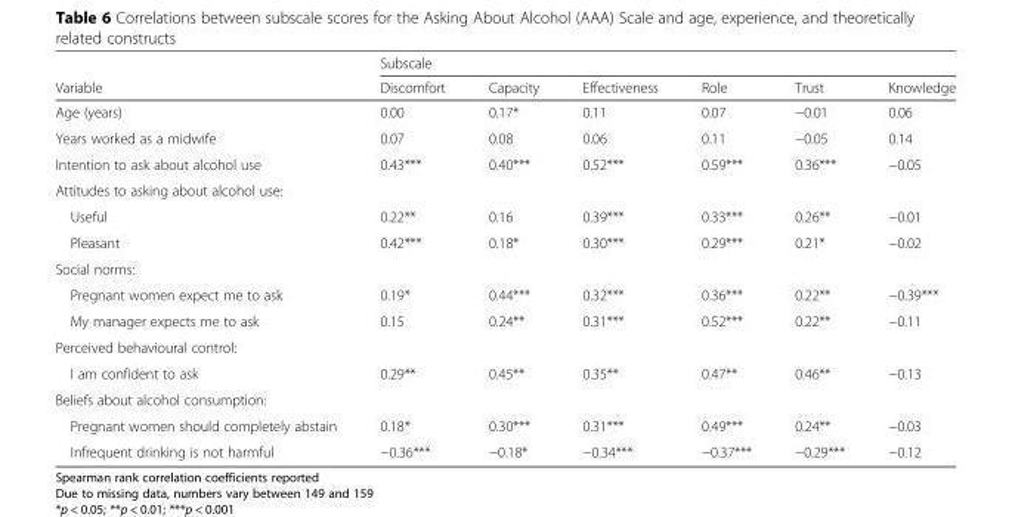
<table><thead><tr><td rowspan="2">Variable</td><td colspan="6">Subscale</td></tr><tr><td>Discomfort</td><td>Capacity</td><td>Effectiveness</td><td>Role</td><td>Trust</td><td>Knowledge</td></tr></thead><tbody><tr><td>Age (years)</td><td>0.00</td><td>0.17*</td><td>0.11</td><td>0.07</td><td>−0.01</td><td>0.06</td></tr><tr><td>Years worked as a midwife</td><td>0.07</td><td>0.08</td><td>0.06</td><td>0.11</td><td>−0.05</td><td>0.14</td></tr><tr><td>Intention to ask about alcohol use</td><td>0.43***</td><td>0.40***</td><td>0.52***</td><td>0.59***</td><td>0.36***</td><td>−0.05</td></tr><tr><td colspan="7">Attitudes to asking about alcohol use:</td></tr><tr><td>Useful</td><td>0.22**</td><td>0.16</td><td>0.39***</td><td>0.33***</td><td>0.26**</td><td>−0.01</td></tr><tr><td>Pleasant</td><td>0.42***</td><td>0.18*</td><td>0.30***</td><td>0.29***</td><td>0.21*</td><td>−0.02</td></tr><tr><td colspan="7">Social norms:</td></tr><tr><td>Pregnant women expect me to ask</td><td>0.19*</td><td>0.44***</td><td>0.32***</td><td>0.36***</td><td>0.22**</td><td>−0.39***</td></tr><tr><td>My manager expects me to ask</td><td>0.15</td><td>0.24**</td><td>0.31***</td><td>0.52***</td><td>0.22**</td><td>−0.11</td></tr><tr><td colspan="7">Perceived behavioural control:</td></tr><tr><td>I am confident to ask</td><td>0.29**</td><td>0.45**</td><td>0.35**</td><td>0.47**</td><td>0.46**</td><td>−0.13</td></tr><tr><td colspan="7">Beliefs about alcohol consumption:</td></tr><tr><td>Pregnant women should completely abstain</td><td>0.18*</td><td>0.30***</td><td>0.31***</td><td>0.49***</td><td>0.24**</td><td>−0.03</td></tr><tr><td>Infrequent drinking is not harmful</td><td>−0.36***</td><td>−0.18*</td><td>−0.34***</td><td>−0.37***</td><td>−0.29***</td><td>−0.12</td></tr></tbody></table>